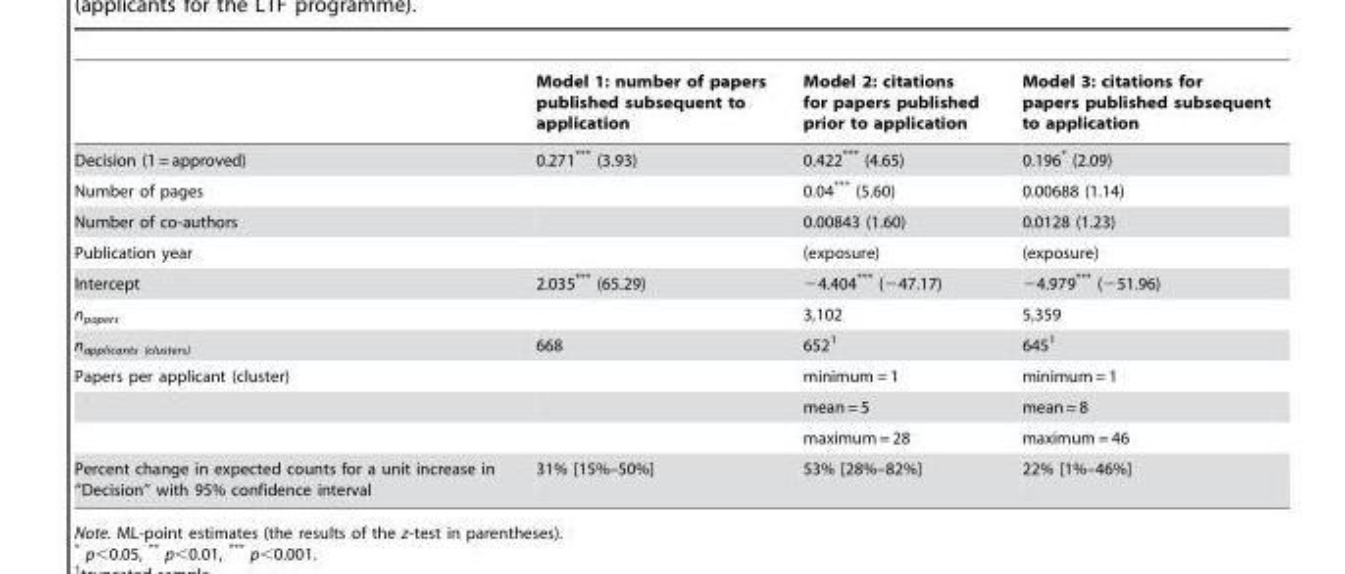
<table><thead><tr><td></td><td>Model 1: number of papers published subsequent to application</td><td>Model 2: citations for papers published prior to application</td><td>Model 3: citations for papers published subsequent to application</td></tr></thead><tbody><tr><td>Decision (1 = approved)</td><td>0.271*** (3.93)</td><td>0.422*** (4.65)</td><td>0.196* (2.09)</td></tr><tr><td>Number of pages</td><td></td><td>0.04*** (5.60)</td><td>0.00688 (1.14)</td></tr><tr><td>Number of co-authors</td><td></td><td>0.00843 (1.60)</td><td>0.0128 (1.23)</td></tr><tr><td>Publication year</td><td></td><td>(exposure)</td><td>(exposure)</td></tr><tr><td>Intercept</td><td>2.035*** (65.29)</td><td>−4.404*** (−47.17)</td><td>−4.979*** (−51.96)</td></tr><tr><td>n<sub>papers</sub></td><td></td><td>3,102</td><td>5,359</td></tr><tr><td>n<sub>applicants (clusters)</sub></td><td>668</td><td>652<sup>1</sup></td><td>645<sup>1</sup></td></tr><tr><td rowspan="3">Papers per applicant (cluster)</td><td></td><td>minimum = 1</td><td>minimum = 1</td></tr><tr><td></td><td>mean = 5</td><td>mean = 8</td></tr><tr><td></td><td>maximum = 28</td><td>maximum = 46</td></tr><tr><td>Percent change in expected counts for a unit increase in ‘‘Decision’’ with 95% confidence interval</td><td>31% [15%–50%]</td><td>53% [28%–82%]</td><td>22% [1%–46%]</td></tr></tbody></table>